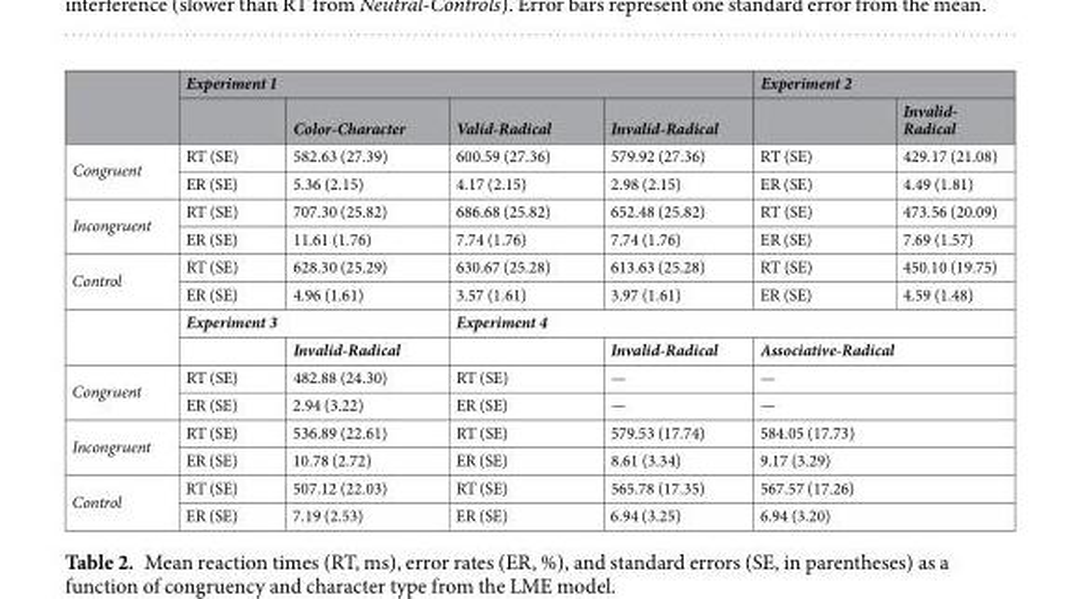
<table><thead><tr><td rowspan="2"></td><td colspan="4">Experiment 1</td><td colspan="2">Experiment 2</td></tr><tr><td></td><td>Color-Character</td><td>Valid-Radical</td><td>Invalid-Radical</td><td></td><td>Invalid- Radical</td></tr></thead><tbody><tr><td rowspan="2">Congruent</td><td>RT (SE)</td><td>582.63 (27.39)</td><td>600.59 (27.36)</td><td>579.92 (27.36)</td><td>RT (SE)</td><td>429.17 (21.08)</td></tr><tr><td>ER (SE)</td><td>5.36 (2.15)</td><td>4.17 (2.15)</td><td>2.98 (2.15)</td><td>ER (SE)</td><td>4.49 (1.81)</td></tr><tr><td rowspan="2">Incongruent</td><td>RT (SE)</td><td>707.30 (25.82)</td><td>686.68 (25.82)</td><td>652.48 (25.82)</td><td>RT (SE)</td><td>473.56 (20.09)</td></tr><tr><td>ER (SE)</td><td>11.61 (1.76)</td><td>7.74 (1.76)</td><td>7.74 (1.76)</td><td>ER (SE)</td><td>7.69 (1.57)</td></tr><tr><td rowspan="4">Control</td><td>RT (SE)</td><td>628.30 (25.29)</td><td>630.67 (25.28)</td><td>613.63 (25.28)</td><td>RT (SE)</td><td>450.10 (19.75)</td></tr><tr><td>ER (SE)</td><td>4.96 (1.61)</td><td>3.57 (1.61)</td><td>3.97 (1.61)</td><td>ER (SE)</td><td>4.59 (1.48)</td></tr><tr><td colspan="2">Experiment 3</td><td colspan="4">Experiment 4</td></tr><tr><td></td><td>Invalid-Radical</td><td></td><td>Invalid-Radical</td><td colspan="2">Associative-Radical</td></tr><tr><td rowspan="2">Congruent</td><td>RT (SE)</td><td>482.88 (24.30)</td><td>RT (SE)</td><td>—</td><td colspan="2">—</td></tr><tr><td>ER (SE)</td><td>2.94 (3.22)</td><td>ER (SE)</td><td>—</td><td colspan="2">—</td></tr><tr><td rowspan="2">Incongruent</td><td>RT (SE)</td><td>536.89 (22.61)</td><td>RT (SE)</td><td>579.53 (17.74)</td><td colspan="2">584.05 (17.73)</td></tr><tr><td>ER (SE)</td><td>10.78 (2.72)</td><td>ER (SE)</td><td>8.61 (3.34)</td><td colspan="2">9.17 (3.29)</td></tr><tr><td rowspan="2">Control</td><td>RT (SE)</td><td>507.12 (22.03)</td><td>RT (SE)</td><td>565.78 (17.35)</td><td colspan="2">567.57 (17.26)</td></tr><tr><td>ER (SE)</td><td>7.19 (2.53)</td><td>ER (SE)</td><td>6.94 (3.25)</td><td colspan="2">6.94 (3.20)</td></tr></tbody></table>